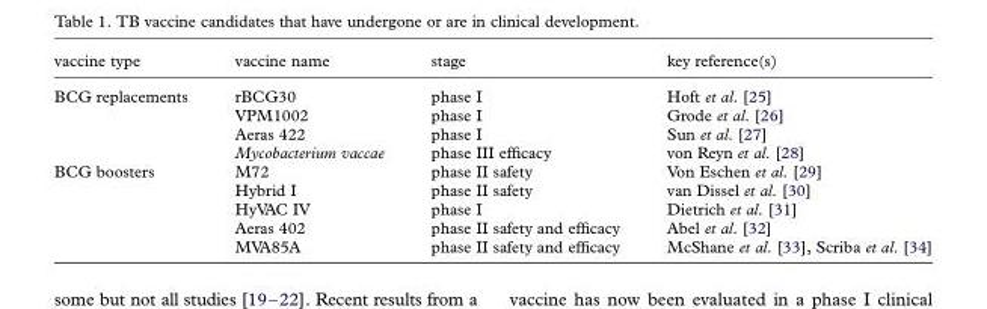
<table><thead><tr><td>vaccine type</td><td>vaccine name</td><td>stage</td><td>key reference(s)</td></tr></thead><tbody><tr><td rowspan="4">BCG replacements</td><td>rBCG30</td><td>phase I</td><td>Hoft et al. [25]</td></tr><tr><td>VPM1002</td><td>phase I</td><td>Grode et al. [26]</td></tr><tr><td>Aeras 422</td><td>phase I</td><td>Sun et al. [27]</td></tr><tr><td>Mycobacterium vaccae</td><td>phase III efficacy</td><td>von Reyn et al. [28]</td></tr><tr><td rowspan="5">BCG boosters</td><td>M72</td><td>phase II safety</td><td>Von Eschen et al. [29]</td></tr><tr><td>Hybrid I</td><td>phase II safety</td><td>van Dissel et al. [30]</td></tr><tr><td>HyVAC IV</td><td>phase I</td><td>Dietrich et al. [31]</td></tr><tr><td>Aeras 402</td><td>phase II safety and efficacy</td><td>Abel et al. [32]</td></tr><tr><td>MVA85A</td><td>phase II safety and efficacy</td><td>McShane et al. [33], Scriba et al. [34]</td></tr></tbody></table>